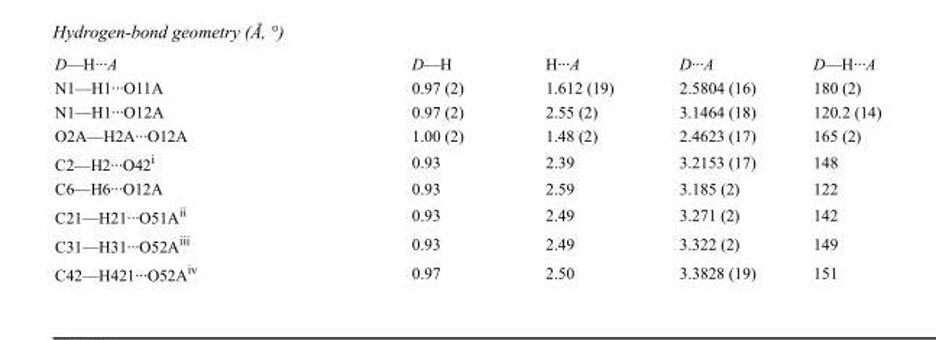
<table><tbody><tr><td>D—H···A</td><td>D—H</td><td>H···A</td><td>D···A</td><td>D—H···A</td></tr><tr><td>N1—H1···O11A</td><td>0.97 (2)</td><td>1.612 (19)</td><td>2.5804 (16)</td><td>180 (2)</td></tr><tr><td>N1—H1···O12A</td><td>0.97 (2)</td><td>2.55 (2)</td><td>3.1464 (18)</td><td>120.2 (14)</td></tr><tr><td>O2A—H2A···O12A</td><td>1.00 (2)</td><td>1.48 (2)</td><td>2.4623 (17)</td><td>165 (2)</td></tr><tr><td>C2—H2···O42<sup>i</sup></td><td>0.93</td><td>2.39</td><td>3.2153 (17)</td><td>148</td></tr><tr><td>C6—H6···O12A</td><td>0.93</td><td>2.59</td><td>3.185 (2)</td><td>122</td></tr><tr><td>C21—H21···O51A<sup>ii</sup></td><td>0.93</td><td>2.49</td><td>3.271 (2)</td><td>142</td></tr><tr><td>C31—H31···O52A<sup>iii</sup></td><td>0.93</td><td>2.49</td><td>3.322 (2)</td><td>149</td></tr><tr><td>C42—H421···O52A<sup>iv</sup></td><td>0.97</td><td>2.50</td><td>3.3828 (19)</td><td>151</td></tr></tbody></table>